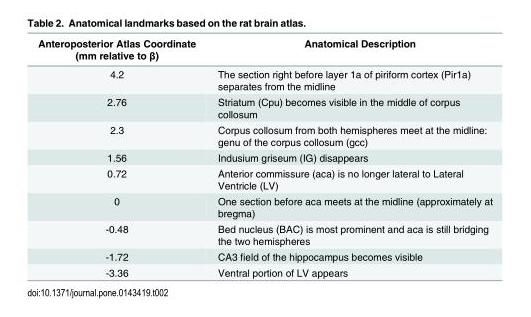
<table><thead><tr><td>Anteroposterior Atlas Coordinate (mm relative to β)</td><td>Anatomical Description</td></tr></thead><tbody><tr><td>4.2</td><td>The section right before layer 1a of piriform cortex (Pir1a) separates from the midline</td></tr><tr><td>2.76</td><td>Striatum (Cpu) becomes visible in the middle of corpus collosum</td></tr><tr><td>2.3</td><td>Corpus collosum from both hemispheres meet at the midline: genu of the corpus collosum (gcc)</td></tr><tr><td>1.56</td><td>Indusium griseum (IG) disappears</td></tr><tr><td>0.72</td><td>Anterior commissure (aca) is no longer lateral to Lateral Ventricle (LV)</td></tr><tr><td>0</td><td>One section before aca meets at the midline (approximately at bregma)</td></tr><tr><td>-0.48</td><td>Bed nucleus (BAC) is most prominent and aca is still bridging the two hemispheres</td></tr><tr><td>-1.72</td><td>CA3 field of the hippocampus becomes visible</td></tr><tr><td>-3.36</td><td>Ventral portion of LV appears</td></tr></tbody></table>